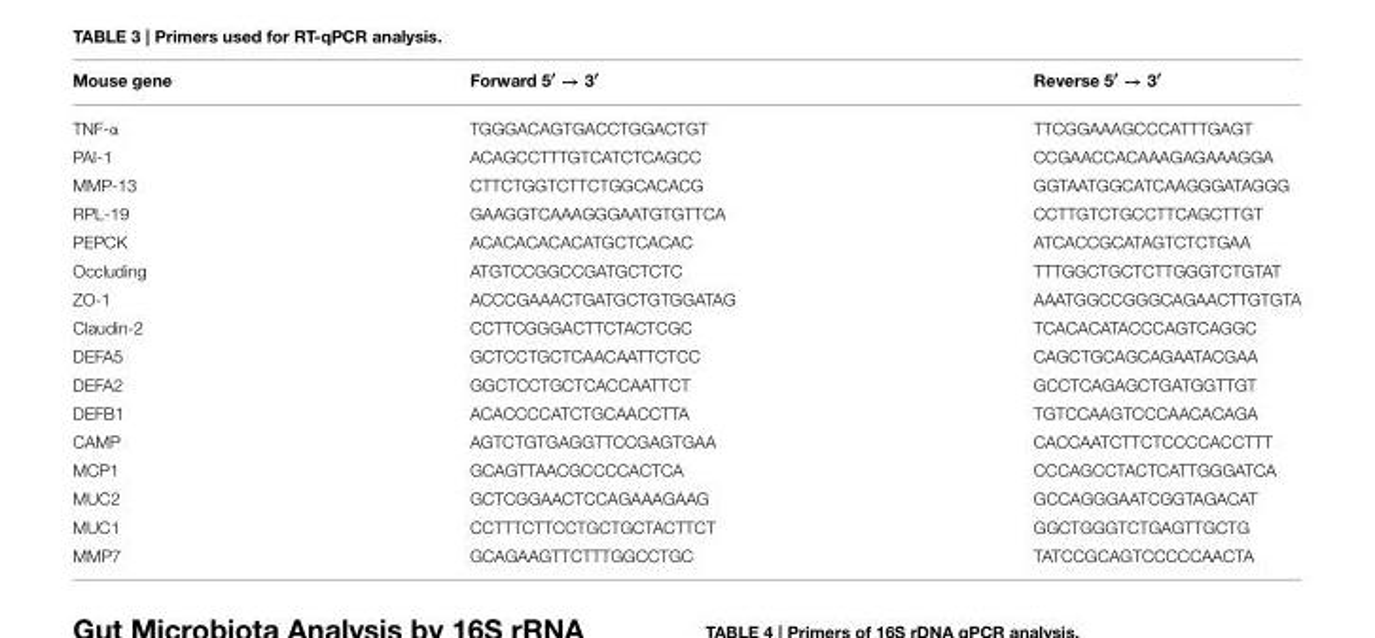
<table><thead><tr><td>Mouse gene</td><td>Forward 5′ → 3′</td><td>Reverse 5′ → 3′</td></tr></thead><tbody><tr><td>TNF-α</td><td>TGGGACAGTGACCTGGACTGT</td><td>TTCGGAAAGCCCATTTGAGT</td></tr><tr><td>PAI-1</td><td>ACAGCCTTTGTCATCTCAGCC</td><td>CCGAACCACAAAGAGAAAGGA</td></tr><tr><td>MMP-13</td><td>CTTCTGGTCTTCTGGCACACG</td><td>GGTAATGGCATCAAGGGATAGGG</td></tr><tr><td>RPL-19</td><td>GAAGGTCAAAGGGAATGTGTTCA</td><td>CCTTGTCTGCCTTCAGCTTGT</td></tr><tr><td>PEPCK</td><td>ACACACACACATGCTCACAC</td><td>ATCACCGCATAGTCTCTGAA</td></tr><tr><td>Occluding</td><td>ATGTCCGGCCGATGCTCTC</td><td>TTTGGCTGCTCTTGGGTCTGTAT</td></tr><tr><td>ZO-1</td><td>ACCCGAAACTGATGCTGTGGATAG</td><td>AAATGGCCGGGCAGAACTTGTGTA</td></tr><tr><td>Claudin-2</td><td>CCTTCGGGACTTCTACTCGC</td><td>TCACACATACCCAGTCAGGC</td></tr><tr><td>DEFA5</td><td>GCTCCTGCTCAACAATTCTCC</td><td>CAGCTGCAGCAGAATACGAA</td></tr><tr><td>DEFA2</td><td>GGCTCCTGCTCACCAATTCT</td><td>GCCTCAGAGCTGATGGTTGT</td></tr><tr><td>DEFB1</td><td>ACACCCCATCTGCAACCTTA</td><td>TGTCCAAGTCCCAACACAGA</td></tr><tr><td>CAMP</td><td>AGTCTGTGAGGTTCCGAGTGAA</td><td>CACCAATCTTCTCCCCACCTTT</td></tr><tr><td>MCP1</td><td>GCAGTTAACGCCCCACTCA</td><td>CCCAGCCTACTCATTGGGATCA</td></tr><tr><td>MUC2</td><td>GCTCGGAACTCCAGAAAGAAG</td><td>GCCAGGGAATCGGTAGACAT</td></tr><tr><td>MUC1</td><td>CCTTTCTTCCTGCTGCTACTTCT</td><td>GGCTGGGTCTGAGTTGCTG</td></tr><tr><td>MMP7</td><td>GCAGAAGTTCTTTGGCCTGC</td><td>TATCCGCAGTCCCCCAACTA</td></tr></tbody></table>